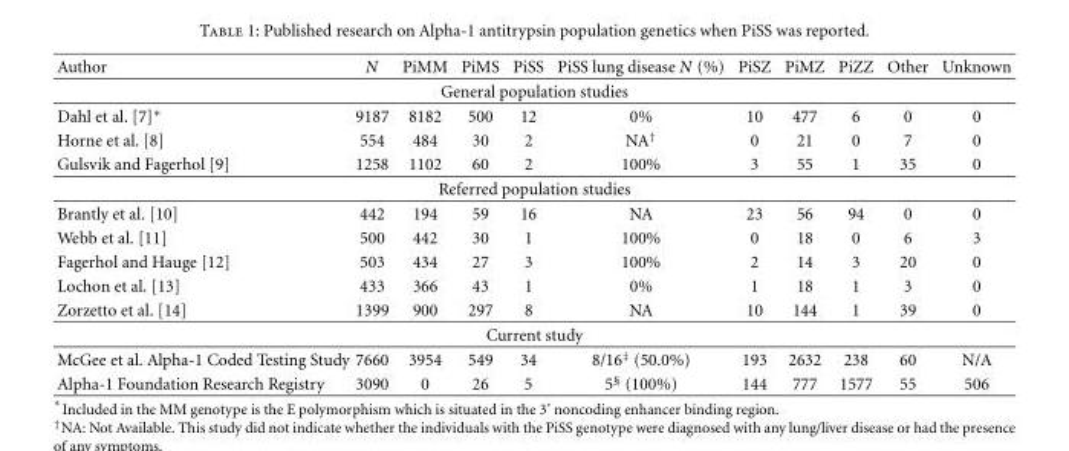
<table><thead><tr><td>Author</td><td>N</td><td>PiMM</td><td>PiMS</td><td>PiSS</td><td>PiSS lung disease N (%)</td><td>PiSZ</td><td>PiMZ</td><td>PiZZ</td><td>Other</td><td>Unknown</td></tr></thead><tbody><tr><td colspan="11">General population studies</td></tr><tr><td>Dahl et al. [7]∗</td><td>9187</td><td>8182</td><td>500</td><td>12</td><td>0%</td><td>10</td><td>477</td><td>6</td><td>0</td><td>0</td></tr><tr><td>Horne et al. [8]</td><td>554</td><td>484</td><td>30</td><td>2</td><td>NA<sup>†</sup></td><td>0</td><td>21</td><td>0</td><td>7</td><td>0</td></tr><tr><td>Gulsvik and Fagerhol [9]</td><td>1258</td><td>1102</td><td>60</td><td>2</td><td>100%</td><td>3</td><td>55</td><td>1</td><td>35</td><td>0</td></tr><tr><td colspan="11">Referred population studies</td></tr><tr><td>Brantly et al. [10]</td><td>442</td><td>194</td><td>59</td><td>16</td><td>NA</td><td>23</td><td>56</td><td>94</td><td>0</td><td>0</td></tr><tr><td>Webb et al. [11]</td><td>500</td><td>442</td><td>30</td><td>1</td><td>100%</td><td>0</td><td>18</td><td>0</td><td>6</td><td>3</td></tr><tr><td>Fagerhol and Hauge [12]</td><td>503</td><td>434</td><td>27</td><td>3</td><td>100%</td><td>2</td><td>14</td><td>3</td><td>20</td><td>0</td></tr><tr><td>Lochon et al. [13]</td><td>433</td><td>366</td><td>43</td><td>1</td><td>0%</td><td>1</td><td>18</td><td>1</td><td>3</td><td>0</td></tr><tr><td>Zorzetto et al. [14]</td><td>1399</td><td>900</td><td>297</td><td>8</td><td>NA</td><td>10</td><td>144</td><td>1</td><td>39</td><td>0</td></tr><tr><td colspan="11">Current study</td></tr><tr><td>McGee et al. Alpha-1 Coded Testing Study</td><td>7660</td><td>3954</td><td>549</td><td>34</td><td>8/16<sup>‡</sup> (50.0%)</td><td>193</td><td>2632</td><td>238</td><td>60</td><td>N/A</td></tr><tr><td>Alpha-1 Foundation Research Registry</td><td>3090</td><td>0</td><td>26</td><td>5</td><td>5<sup>§</sup> (100%)</td><td>144</td><td>777</td><td>1577</td><td>55</td><td>506</td></tr></tbody></table>